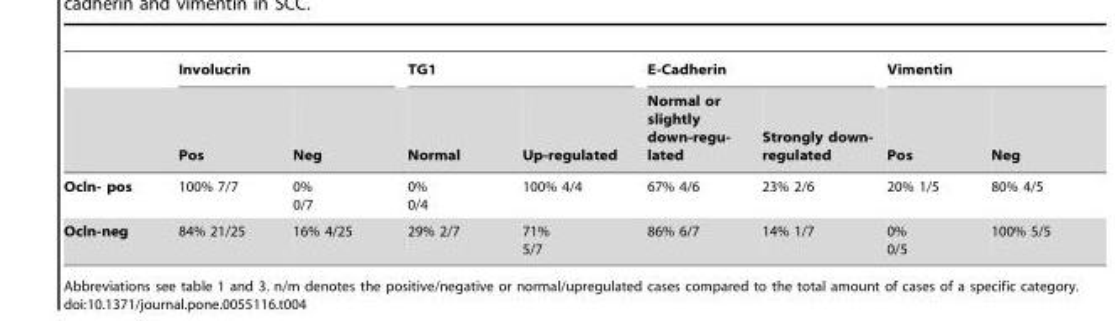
<table><thead><tr><td rowspan="2"></td><td colspan="2">Involucrin</td><td colspan="2">TG1</td><td colspan="2">E-Cadherin</td><td colspan="2">Vimentin</td></tr><tr><td>Pos</td><td>Neg</td><td>Normal</td><td>Up-regulated</td><td>Normal or slightly down-regu- lated</td><td>Strongly down- regulated</td><td>Pos</td><td>Neg</td></tr></thead><tbody><tr><td>Ocln- pos</td><td>100% 7/7</td><td>0% 0/7</td><td>0% 0/4</td><td>100% 4/4</td><td>67% 4/6</td><td>23% 2/6</td><td>20% 1/5</td><td>80% 4/5</td></tr><tr><td>Ocln-neg</td><td>84% 21/25</td><td>16% 4/25</td><td>29% 2/7</td><td>71% 5/7</td><td>86% 6/7</td><td>14% 1/7</td><td>0% 0/5</td><td>100% 5/5</td></tr></tbody></table>